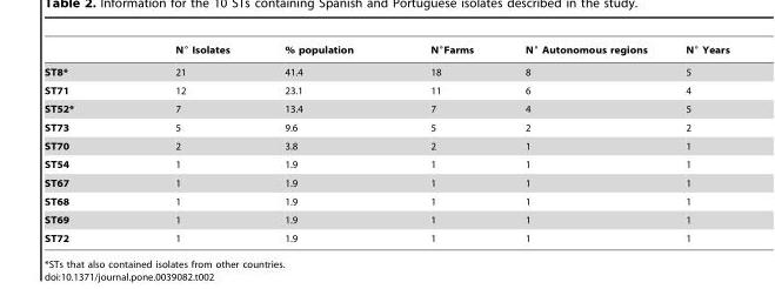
<table><thead><tr><td></td><td>N° Isolates</td><td>% population</td><td>N°Farms</td><td>N° Autonomous regions</td><td>N° Years</td></tr></thead><tbody><tr><td>ST8*</td><td>21</td><td>41.4</td><td>18</td><td>8</td><td>5</td></tr><tr><td>ST71</td><td>12</td><td>23.1</td><td>11</td><td>6</td><td>4</td></tr><tr><td>ST52*</td><td>7</td><td>13.4</td><td>7</td><td>4</td><td>5</td></tr><tr><td>ST73</td><td>5</td><td>9.6</td><td>5</td><td>2</td><td>2</td></tr><tr><td>ST70</td><td>2</td><td>3.8</td><td>2</td><td>1</td><td>1</td></tr><tr><td>ST54</td><td>1</td><td>1.9</td><td>1</td><td>1</td><td>1</td></tr><tr><td>ST67</td><td>1</td><td>1.9</td><td>1</td><td>1</td><td>1</td></tr><tr><td>ST68</td><td>1</td><td>1.9</td><td>1</td><td>1</td><td>1</td></tr><tr><td>ST69</td><td>1</td><td>1.9</td><td>1</td><td>1</td><td>1</td></tr><tr><td>ST72</td><td>1</td><td>1.9</td><td>1</td><td>1</td><td>1</td></tr></tbody></table>